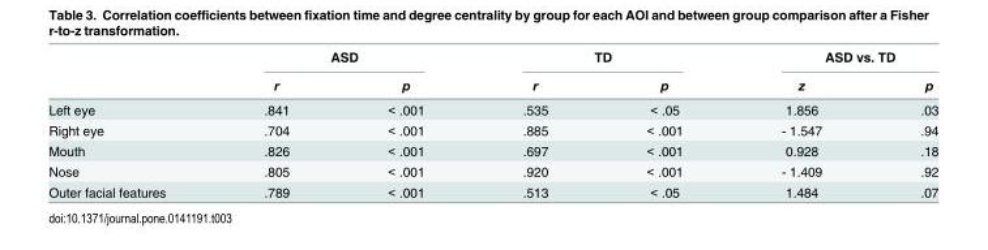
<table><thead><tr><td rowspan="2"></td><td colspan="2">ASD</td><td colspan="2">TD</td><td colspan="2">ASD vs. TD</td></tr><tr><td>r</td><td>p</td><td>r</td><td>p</td><td>z</td><td>p</td></tr></thead><tbody><tr><td>Left eye</td><td>.841</td><td>&lt; .001</td><td>.535</td><td>&lt; .05</td><td>1.856</td><td>.03</td></tr><tr><td>Right eye</td><td>.704</td><td>&lt; .001</td><td>.885</td><td>&lt; .001</td><td>- 1.547</td><td>.94</td></tr><tr><td>Mouth</td><td>.826</td><td>&lt; .001</td><td>.697</td><td>&lt; .001</td><td>0.928</td><td>.18</td></tr><tr><td>Nose</td><td>.805</td><td>&lt; .001</td><td>.920</td><td>&lt; .001</td><td>- 1.409</td><td>.92</td></tr><tr><td>Outer facial features</td><td>.789</td><td>&lt; .001</td><td>.513</td><td>&lt; .05</td><td>1.484</td><td>.07</td></tr></tbody></table>